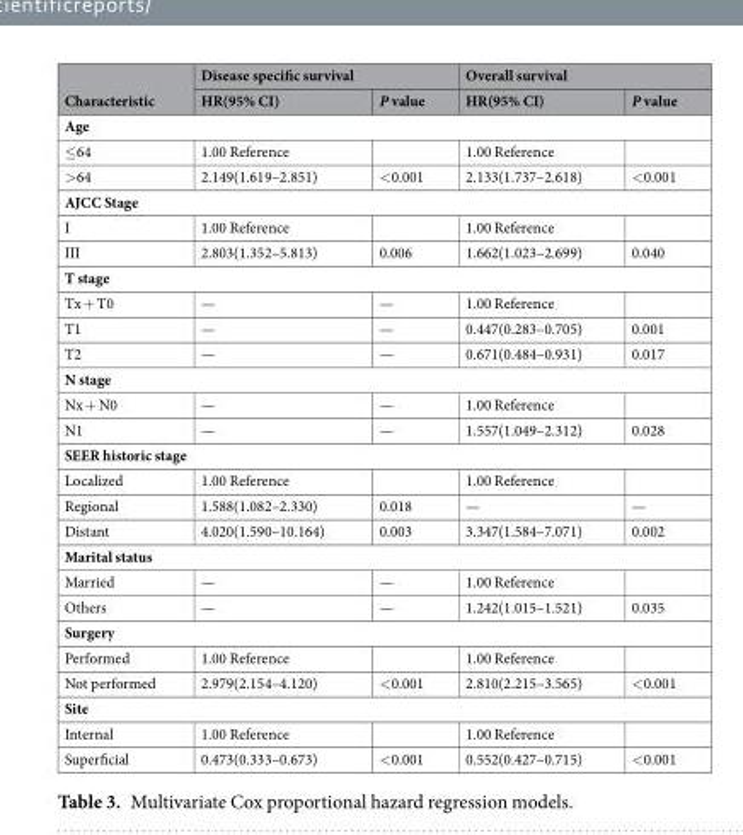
<table><thead><tr><td rowspan="2">Characteristic</td><td colspan="2">Disease specific survival</td><td colspan="2">Overall survival</td></tr><tr><td>HR(95% CI)</td><td>P value</td><td>HR(95% CI)</td><td>P value</td></tr></thead><tbody><tr><td colspan="5">Age</td></tr><tr><td>≤64</td><td>1.00 Reference</td><td></td><td>1.00 Reference</td><td></td></tr><tr><td>&gt;64</td><td>2.149(1.619–2.851)</td><td>&lt;0.001</td><td>2.133(1.737–2.618)</td><td>&lt;0.001</td></tr><tr><td colspan="5">AJCC Stage</td></tr><tr><td>I</td><td>1.00 Reference</td><td></td><td>1.00 Reference</td><td></td></tr><tr><td>III</td><td>2.803(1.352–5.813)</td><td>0.006</td><td>1.662(1.023–2.699)</td><td>0.040</td></tr><tr><td colspan="5">T stage</td></tr><tr><td>Tx + T0</td><td>—</td><td>—</td><td>1.00 Reference</td><td></td></tr><tr><td>T1</td><td>—</td><td>—</td><td>0.447(0.283–0.705)</td><td>0.001</td></tr><tr><td>T2</td><td>—</td><td>—</td><td>0.671(0.484–0.931)</td><td>0.017</td></tr><tr><td colspan="5">N stage</td></tr><tr><td>Nx + N0</td><td>—</td><td>—</td><td>1.00 Reference</td><td></td></tr><tr><td>N1</td><td>—</td><td>—</td><td>1.557(1.049–2.312)</td><td>0.028</td></tr><tr><td colspan="5">SEER historic stage</td></tr><tr><td>Localized</td><td>1.00 Reference</td><td></td><td>1.00 Reference</td><td></td></tr><tr><td>Regional</td><td>1.588(1.082–2.330)</td><td>0.018</td><td>—</td><td>—</td></tr><tr><td>Distant</td><td>4.020(1.590–10.164)</td><td>0.003</td><td>3.347(1.584–7.071)</td><td>0.002</td></tr><tr><td colspan="5">Marital status</td></tr><tr><td>Married</td><td>—</td><td>—</td><td>1.00 Reference</td><td></td></tr><tr><td>Others</td><td>—</td><td>—</td><td>1.242(1.015–1.521)</td><td>0.035</td></tr><tr><td colspan="5">Surgery</td></tr><tr><td>Performed</td><td>1.00 Reference</td><td></td><td>1.00 Reference</td><td></td></tr><tr><td>Not performed</td><td>2.979(2.154–4.120)</td><td>&lt;0.001</td><td>2.810(2.215–3.565)</td><td>&lt;0.001</td></tr><tr><td colspan="5">Site</td></tr><tr><td>Internal</td><td>1.00 Reference</td><td></td><td>1.00 Reference</td><td></td></tr><tr><td>Superficial</td><td>0.473(0.333–0.673)</td><td>&lt;0.001</td><td>0.552(0.427–0.715)</td><td>&lt;0.001</td></tr></tbody></table>